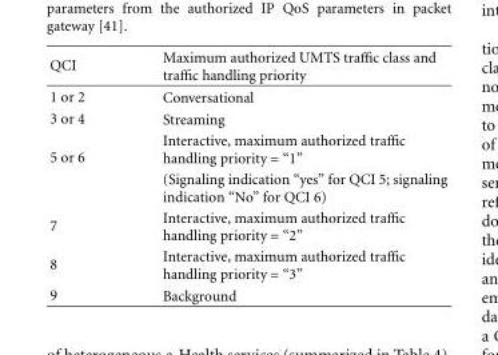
<table><thead><tr><td>QCI</td><td>Maximum authorized UMTS traffic class and traffic handling priority</td></tr></thead><tbody><tr><td>1 or 2</td><td>Conversational</td></tr><tr><td>3 or 4</td><td>Streaming</td></tr><tr><td rowspan="2">5 or 6</td><td>Interactive, maximum authorized traffic handling priority = “1”</td></tr><tr><td>(Signaling indication “yes” for QCI 5; signaling indication “No” for QCI 6)</td></tr><tr><td>7</td><td>Interactive, maximum authorized traffic handling priority = “2”</td></tr><tr><td>8</td><td>Interactive, maximum authorized traffic handling priority = “3”</td></tr><tr><td>9</td><td>Background</td></tr></tbody></table>